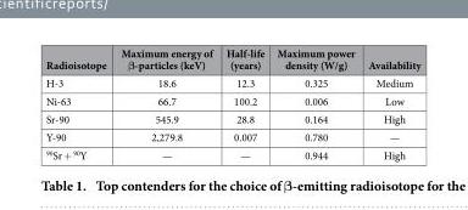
<table><thead><tr><td>Radioisotope</td><td>Maximum energy of β-particles (keV)</td><td>Half-life (years)</td><td>Maximum power density (W/g)</td><td>Availability</td></tr></thead><tbody><tr><td>H-3</td><td>18.6</td><td>12.3</td><td>0.325</td><td>Medium</td></tr><tr><td>Ni-63</td><td>66.7</td><td>100.2</td><td>0.006</td><td>Low</td></tr><tr><td>Sr-90</td><td>545.9</td><td>28.8</td><td>0.164</td><td>High</td></tr><tr><td>Y-90</td><td>2,279.8</td><td>0.007</td><td>0.780</td><td>—</td></tr><tr><td><sup>90</sup>Sr + <sup>90</sup>Y</td><td>—</td><td>—</td><td>0.944</td><td>High</td></tr></tbody></table>